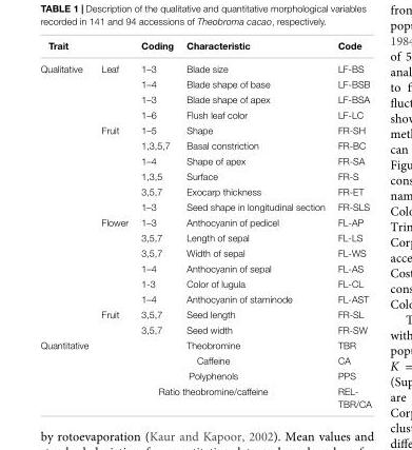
<table><thead><tr><td colspan="2">Trait</td><td rowspan="2">Coding 1–3</td><td rowspan="2">Characteristic Blade size</td><td rowspan="2">Code LF-BS</td></tr><tr><td>Qualitative</td><td>Leaf</td></tr></thead><tbody><tr><td></td><td></td><td>1–4</td><td>Blade shape of base</td><td>LF-BSB</td></tr><tr><td></td><td></td><td>1–3</td><td>Blade shape of apex</td><td>LF-BSA</td></tr><tr><td></td><td></td><td>1–6</td><td>Flush leaf color</td><td>LF-LC</td></tr><tr><td></td><td>Fruit</td><td>1–5</td><td>Shape</td><td>FR-SH</td></tr><tr><td></td><td></td><td>1,3,5,7</td><td>Basal constriction</td><td>FR-BC</td></tr><tr><td></td><td></td><td>1–4</td><td>Shape of apex</td><td>FR-SA</td></tr><tr><td></td><td></td><td>1,3,5</td><td>Surface</td><td>FR-S</td></tr><tr><td></td><td></td><td>3,5,7</td><td>Exocarp thickness</td><td>FR-ET</td></tr><tr><td></td><td></td><td>1–3</td><td>Seed shape in longitudinal section</td><td>FR-SLS</td></tr><tr><td></td><td>Flower</td><td>1–3</td><td>Anthocyanin of pedicel</td><td>FL-AP</td></tr><tr><td></td><td></td><td>3,5,7</td><td>Length of sepal</td><td>FL-LS</td></tr><tr><td></td><td></td><td>3,5,7</td><td>Width of sepal</td><td>FL-WS</td></tr><tr><td></td><td></td><td>1–4</td><td>Anthocyanin of sepal</td><td>FL-AS</td></tr><tr><td></td><td></td><td>1-3</td><td>Color of lugula</td><td>FL-CL</td></tr><tr><td></td><td></td><td>1–4</td><td>Anthocyanin of staminode</td><td>FL-AST</td></tr><tr><td></td><td>Fruit</td><td>3,5,7</td><td>Seed length</td><td>FR-SL</td></tr><tr><td></td><td></td><td>3,5,7</td><td>Seed width</td><td>FR-SW</td></tr><tr><td rowspan="4">Quantitative</td><td colspan="3">Theobromine</td><td>TBR</td></tr><tr><td colspan="3">Caffeine</td><td>CA</td></tr><tr><td colspan="3">Polyphenols</td><td>PPS</td></tr><tr><td colspan="3">Ratio theobromine/caffeine</td><td>REL- TBR/CA</td></tr></tbody></table>